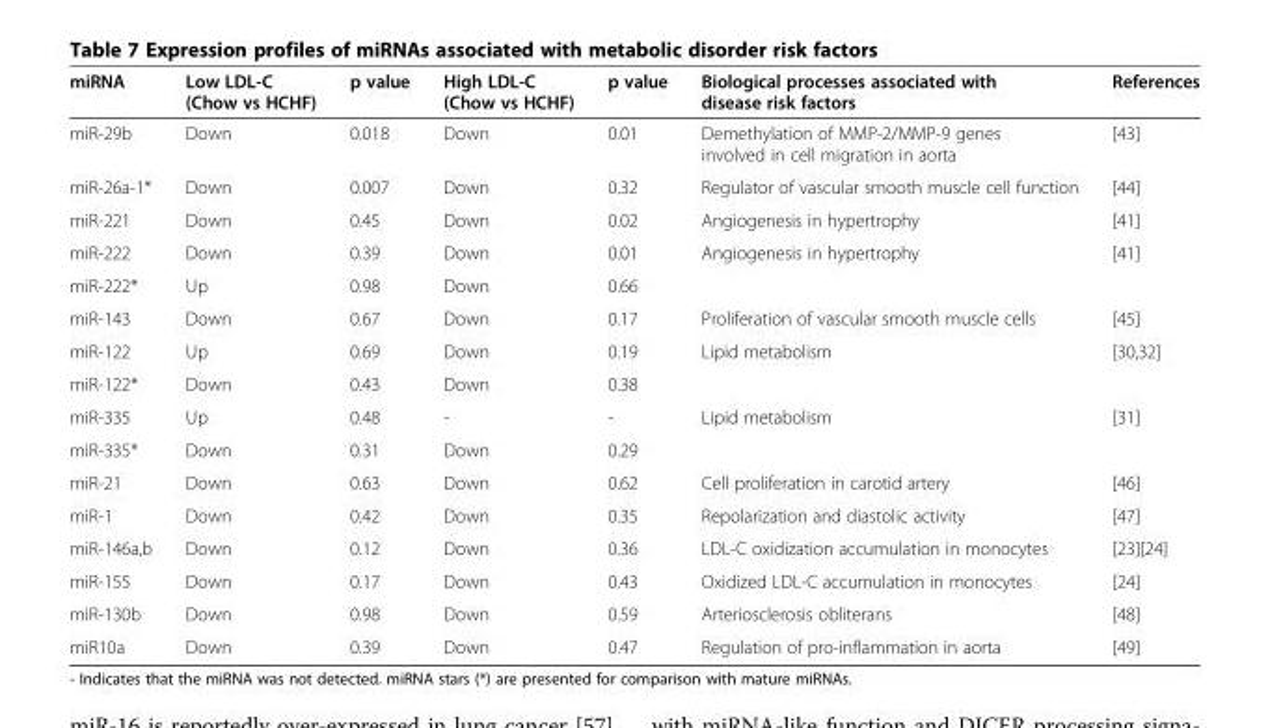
<table><thead><tr><td>miRNA</td><td>Low LDL-C (Chow vs HCHF)</td><td>p value</td><td>High LDL-C (Chow vs HCHF)</td><td>p value</td><td>Biological processes associated with disease risk factors</td><td>References</td></tr></thead><tbody><tr><td>miR-29b</td><td>Down</td><td>0.018</td><td>Down</td><td>0.01</td><td>Demethylation of MMP-2/MMP-9 genes involved in cell migration in aorta</td><td>[43]</td></tr><tr><td>miR-26a-1*</td><td>Down</td><td>0.007</td><td>Down</td><td>0.32</td><td>Regulator of vascular smooth muscle cell function</td><td>[44]</td></tr><tr><td>miR-221</td><td>Down</td><td>0.45</td><td>Down</td><td>0.02</td><td>Angiogenesis in hypertrophy</td><td>[41]</td></tr><tr><td>miR-222</td><td>Down</td><td>0.39</td><td>Down</td><td>0.01</td><td>Angiogenesis in hypertrophy</td><td>[41]</td></tr><tr><td>miR-222*</td><td>Up</td><td>0.98</td><td>Down</td><td>0.66</td><td></td><td></td></tr><tr><td>miR-143</td><td>Down</td><td>0.67</td><td>Down</td><td>0.17</td><td>Proliferation of vascular smooth muscle cells</td><td>[45]</td></tr><tr><td>miR-122</td><td>Up</td><td>0.69</td><td>Down</td><td>0.19</td><td>Lipid metabolism</td><td>[30,32]</td></tr><tr><td>miR-122*</td><td>Down</td><td>0.43</td><td>Down</td><td>0.38</td><td></td><td></td></tr><tr><td>miR-335</td><td>Up</td><td>0.48</td><td>-</td><td>-</td><td>Lipid metabolism</td><td>[31]</td></tr><tr><td>miR-335*</td><td>Down</td><td>0.31</td><td>Down</td><td>0.29</td><td></td><td></td></tr><tr><td>miR-21</td><td>Down</td><td>0.63</td><td>Down</td><td>0.62</td><td>Cell proliferation in carotid artery</td><td>[46]</td></tr><tr><td>miR-1</td><td>Down</td><td>0.42</td><td>Down</td><td>0.35</td><td>Repolarization and diastolic activity</td><td>[47]</td></tr><tr><td>miR-146a,b</td><td>Down</td><td>0.12</td><td>Down</td><td>0.36</td><td>LDL-C oxidization accumulation in monocytes</td><td>[23][24]</td></tr><tr><td>miR-155</td><td>Down</td><td>0.17</td><td>Down</td><td>0.43</td><td>Oxidized LDL-C accumulation in monocytes</td><td>[24]</td></tr><tr><td>miR-130b</td><td>Down</td><td>0.98</td><td>Down</td><td>0.59</td><td>Arteriosclerosis obliterans</td><td>[48]</td></tr><tr><td>miR10a</td><td>Down</td><td>0.39</td><td>Down</td><td>0.47</td><td>Regulation of pro-inflammation in aorta</td><td>[49]</td></tr></tbody></table>